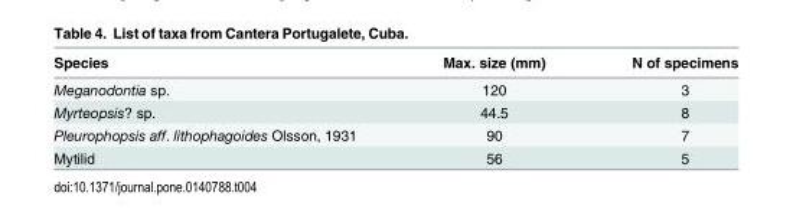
<table><thead><tr><td>Species</td><td>Max. size (mm)</td><td>N of specimens</td></tr></thead><tbody><tr><td>Meganodontia sp.</td><td>120</td><td>3</td></tr><tr><td>Myrteopsis? sp.</td><td>44.5</td><td>8</td></tr><tr><td>Pleurophopsis aff. lithophagoides Olsson, 1931</td><td>90</td><td>7</td></tr><tr><td>Mytilid</td><td>56</td><td>5</td></tr></tbody></table>